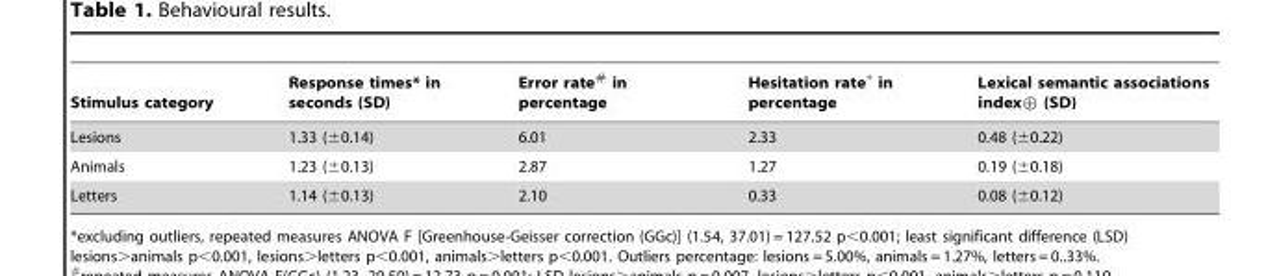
<table><thead><tr><td>Stimulus category</td><td>Response times* in seconds (SD)</td><td>Error rate# in percentage</td><td>Hesitation rate+ in percentage</td><td>Lexical semantic associations index› (SD)</td></tr></thead><tbody><tr><td>Lesions</td><td>1.33 (±0.14)</td><td>6.01</td><td>2.33</td><td>0.48 (±0.22)</td></tr><tr><td>Animals</td><td>1.23 (±0.13)</td><td>2.87</td><td>1.27</td><td>0.19 (±0.18)</td></tr><tr><td>Letters</td><td>1.14 (±0.13)</td><td>2.10</td><td>0.33</td><td>0.08 (±0.12)</td></tr></tbody></table>